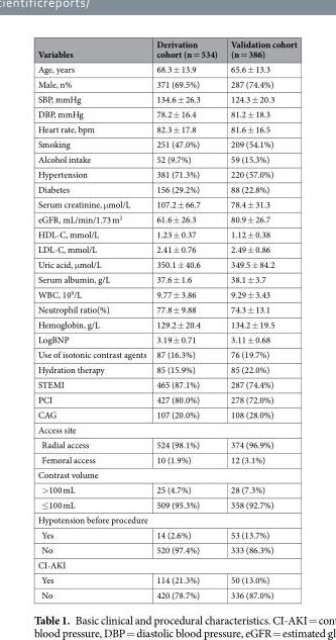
<table><thead><tr><td>Variables</td><td>Derivation cohort (n = 534)</td><td>Validation cohort (n = 386)</td></tr></thead><tbody><tr><td>Age, years</td><td>68.3 ± 13.9</td><td>65.6 ± 13.3</td></tr><tr><td>Male, n%</td><td>371 (69.5%)</td><td>287 (74.4%)</td></tr><tr><td>SBP, mmHg</td><td>134.6 ± 26.3</td><td>124.3 ± 20.3</td></tr><tr><td>DBP, mmHg</td><td>78.2 ± 16.4</td><td>81.2 ± 18.3</td></tr><tr><td>Heart rate, bpm</td><td>82.3 ± 17.8</td><td>81.6 ± 16.5</td></tr><tr><td>Smoking</td><td>251 (47.0%)</td><td>209 (54.1%)</td></tr><tr><td>Alcohol intake</td><td>52 (9.7%)</td><td>59 (15.3%)</td></tr><tr><td>Hypertension</td><td>381 (71.3%)</td><td>220 (57.0%)</td></tr><tr><td>Diabetes</td><td>156 (29.2%)</td><td>88 (22.8%)</td></tr><tr><td>Serum creatinine, μmol/L</td><td>107.2 ± 66.7</td><td>78.4 ± 31.3</td></tr><tr><td>eGFR, mL/min/1.73 m<sup>2</sup></td><td>61.6 ± 26.3</td><td>80.9 ± 26.7</td></tr><tr><td>HDL-C, mmol/L</td><td>1.23 ± 0.37</td><td>1.12 ± 0.38</td></tr><tr><td>LDL-C, mmol/L</td><td>2.41 ± 0.76</td><td>2.49 ± 0.86</td></tr><tr><td>Uric acid, μmol/L</td><td>350.1 ± 40.6</td><td>349.5 ± 84.2</td></tr><tr><td>Serum albumin, g/L</td><td>37.6 ± 1.6</td><td>38.1 ± 3.7</td></tr><tr><td>WBC, 10<sup>9</sup>/L</td><td>9.77 ± 3.86</td><td>9.29 ± 3.43</td></tr><tr><td>Neutrophil ratio(%)</td><td>77.8 ± 9.88</td><td>74.3 ± 13.1</td></tr><tr><td>Hemoglobin, g/L</td><td>129.2 ± 20.4</td><td>134.2 ± 19.5</td></tr><tr><td>LogBNP</td><td>3.19 ± 0.71</td><td>3.11 ± 0.68</td></tr><tr><td>Use of isotonic contrast agents</td><td>87 (16.3%)</td><td>76 (19.7%)</td></tr><tr><td>Hydration therapy</td><td>85 (15.9%)</td><td>85 (22.0%)</td></tr><tr><td>STEMI</td><td>465 (87.1%)</td><td>287 (74.4%)</td></tr><tr><td>PCI</td><td>427 (80.0%)</td><td>278 (72.0%)</td></tr><tr><td>CAG</td><td>107 (20.0%)</td><td>108 (28.0%)</td></tr><tr><td colspan="3">Access site</td></tr><tr><td>Radial access</td><td>524 (98.1%)</td><td>374 (96.9%)</td></tr><tr><td>Femoral access</td><td>10 (1.9%)</td><td>12 (3.1%)</td></tr><tr><td colspan="3">Contrast volume</td></tr><tr><td>&gt;100 mL</td><td>25 (4.7%)</td><td>28 (7.3%)</td></tr><tr><td>≤100 mL</td><td>509 (95.3%)</td><td>358 (92.7%)</td></tr><tr><td colspan="3">Hypotension before procedure</td></tr><tr><td>Yes</td><td>14 (2.6%)</td><td>53 (13.7%)</td></tr><tr><td>No</td><td>520 (97.4%)</td><td>333 (86.3%)</td></tr><tr><td colspan="3">CI-AKI</td></tr><tr><td>Yes</td><td>114 (21.3%)</td><td>50 (13.0%)</td></tr><tr><td>No</td><td>420 (78.7%)</td><td>336 (87.0%)</td></tr></tbody></table>